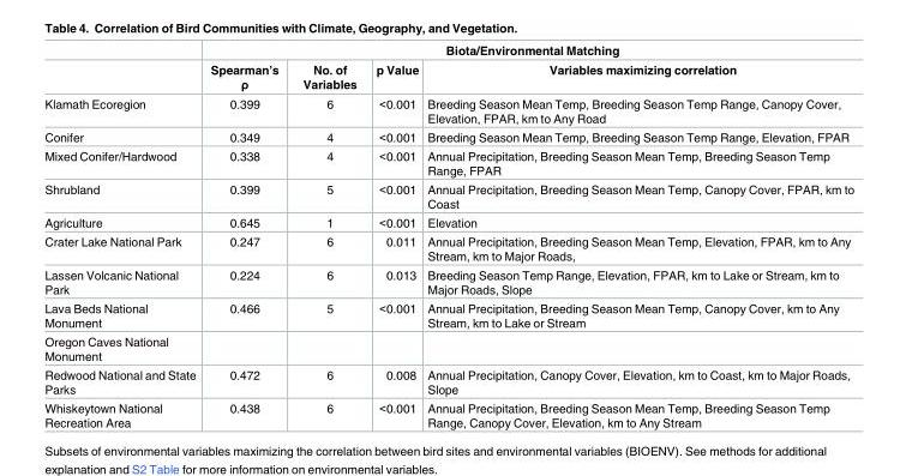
<table><thead><tr><td rowspan="2"></td><td colspan="4">Biota/Environmental Matching</td></tr><tr><td>Spearman’s ρ</td><td>No. of Variables</td><td>p Value</td><td>Variables maximizing correlation</td></tr></thead><tbody><tr><td>Klamath Ecoregion</td><td>0.399</td><td>6</td><td>&lt;0.001</td><td>Breeding Season Mean Temp, Breeding Season Temp Range, Canopy Cover, Elevation, FPAR, km to Any Road</td></tr><tr><td>Conifer</td><td>0.349</td><td>4</td><td>&lt;0.001</td><td>Breeding Season Mean Temp, Breeding Season Temp Range, Elevation, FPAR</td></tr><tr><td>Mixed Conifer/Hardwood</td><td>0.338</td><td>4</td><td>&lt;0.001</td><td>Annual Precipitation, Breeding Season Mean Temp, Breeding Season Temp Range, FPAR</td></tr><tr><td>Shrubland</td><td>0.399</td><td>5</td><td>&lt;0.001</td><td>Annual Precipitation, Breeding Season Mean Temp, Canopy Cover, FPAR, km to Coast</td></tr><tr><td>Agriculture</td><td>0.645</td><td>1</td><td>&lt;0.001</td><td>Elevation</td></tr><tr><td>Crater Lake National Park</td><td>0.247</td><td>6</td><td>0.011</td><td>Annual Precipitation, Breeding Season Mean Temp, Elevation, FPAR, km to Any Stream, km to Major Roads,</td></tr><tr><td>Lassen Volcanic National Park</td><td>0.224</td><td>6</td><td>0.013</td><td>Breeding Season Temp Range, Elevation, FPAR, km to Lake or Stream, km to Major Roads, Slope</td></tr><tr><td>Lava Beds National Monument</td><td>0.466</td><td>5</td><td>&lt;0.001</td><td>Annual Precipitation, Breeding Season Mean Temp, Canopy Cover, km to Any Stream, km to Lake or Stream</td></tr><tr><td colspan="5">Oregon Caves National Monument</td></tr><tr><td>Redwood National and State Parks</td><td>0.472</td><td>6</td><td>0.008</td><td>Annual Precipitation, Canopy Cover, Elevation, km to Coast, km to Major Roads, Slope</td></tr><tr><td>Whiskeytown National Recreation Area</td><td>0.438</td><td>6</td><td>&lt;0.001</td><td>Annual Precipitation, Breeding Season Mean Temp, Breeding Season Temp Range, Canopy Cover, Elevation, km to Any Stream</td></tr></tbody></table>